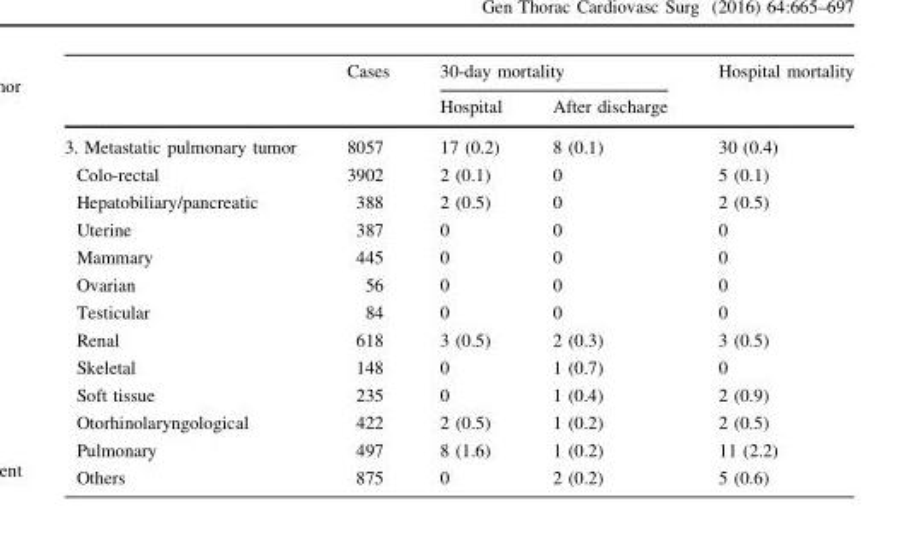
<table><thead><tr><td rowspan="2"></td><td rowspan="2">Cases</td><td colspan="2">30-day mortality</td><td rowspan="2">Hospital mortality</td></tr><tr><td>Hospital</td><td>After discharge</td></tr></thead><tbody><tr><td>3. Metastatic pulmonary tumor</td><td>8057</td><td>17 (0.2)</td><td>8 (0.1)</td><td>30 (0.4)</td></tr><tr><td>Colo-rectal</td><td>3902</td><td>2 (0.1)</td><td>0</td><td>5 (0.1)</td></tr><tr><td>Hepatobiliary/pancreatic</td><td>388</td><td>2 (0.5)</td><td>0</td><td>2 (0.5)</td></tr><tr><td>Uterine</td><td>387</td><td>0</td><td>0</td><td>0</td></tr><tr><td>Mammary</td><td>445</td><td>0</td><td>0</td><td>0</td></tr><tr><td>Ovarian</td><td>56</td><td>0</td><td>0</td><td>0</td></tr><tr><td>Testicular</td><td>84</td><td>0</td><td>0</td><td>0</td></tr><tr><td>Renal</td><td>618</td><td>3 (0.5)</td><td>2 (0.3)</td><td>3 (0.5)</td></tr><tr><td>Skeletal</td><td>148</td><td>0</td><td>1 (0.7)</td><td>0</td></tr><tr><td>Soft tissue</td><td>235</td><td>0</td><td>1 (0.4)</td><td>2 (0.9)</td></tr><tr><td>Otorhinolaryngological</td><td>422</td><td>2 (0.5)</td><td>1 (0.2)</td><td>2 (0.5)</td></tr><tr><td>Pulmonary</td><td>497</td><td>8 (1.6)</td><td>1 (0.2)</td><td>11 (2.2)</td></tr><tr><td>Others</td><td>875</td><td>0</td><td>2 (0.2)</td><td>5 (0.6)</td></tr></tbody></table>